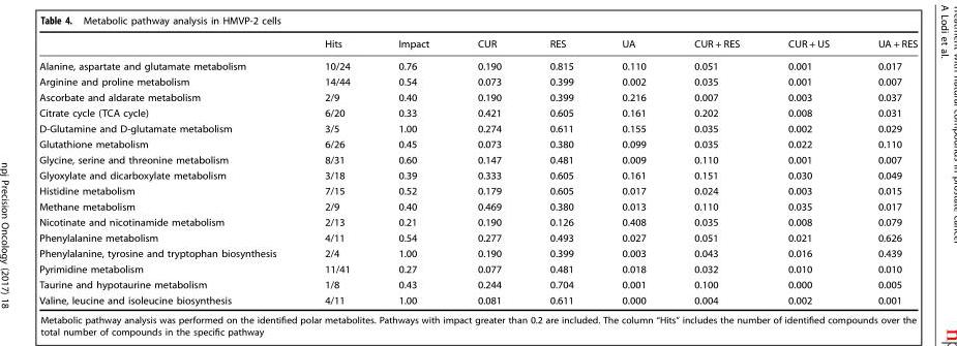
<table><thead><tr><td></td><td>Hits</td><td>Impact</td><td>CUR</td><td>RES</td><td>UA</td><td>CUR + RES</td><td>CUR + US</td><td>UA + RES</td></tr></thead><tbody><tr><td>Alanine, aspartate and glutamate metabolism</td><td>10/24</td><td>0.76</td><td>0.190</td><td>0.815</td><td>0.110</td><td>0.051</td><td>0.001</td><td>0.017</td></tr><tr><td>Arginine and proline metabolism</td><td>14/44</td><td>0.54</td><td>0.073</td><td>0.399</td><td>0.002</td><td>0.035</td><td>0.001</td><td>0.007</td></tr><tr><td>Ascorbate and aldarate metabolism</td><td>2/9</td><td>0.40</td><td>0.190</td><td>0.399</td><td>0.216</td><td>0.007</td><td>0.003</td><td>0.037</td></tr><tr><td>Citrate cycle (TCA cycle)</td><td>6/20</td><td>0.33</td><td>0.421</td><td>0.605</td><td>0.161</td><td>0.202</td><td>0.008</td><td>0.031</td></tr><tr><td>D-Glutamine and D-glutamate metabolism</td><td>3/5</td><td>1.00</td><td>0.274</td><td>0.611</td><td>0.155</td><td>0.035</td><td>0.002</td><td>0.029</td></tr><tr><td>Glutathione metabolism</td><td>6/26</td><td>0.45</td><td>0.073</td><td>0.380</td><td>0.099</td><td>0.035</td><td>0.022</td><td>0.110</td></tr><tr><td>Glycine, serine and threonine metabolism</td><td>8/31</td><td>0.60</td><td>0.147</td><td>0.481</td><td>0.009</td><td>0.110</td><td>0.001</td><td>0.007</td></tr><tr><td>Glyoxylate and dicarboxylate metabolism</td><td>3/18</td><td>0.39</td><td>0.333</td><td>0.605</td><td>0.161</td><td>0.151</td><td>0.030</td><td>0.049</td></tr><tr><td>Histidine metabolism</td><td>7/15</td><td>0.52</td><td>0.179</td><td>0.605</td><td>0.017</td><td>0.024</td><td>0.003</td><td>0.015</td></tr><tr><td>Methane metabolism</td><td>2/9</td><td>0.40</td><td>0.469</td><td>0.380</td><td>0.013</td><td>0.110</td><td>0.035</td><td>0.017</td></tr><tr><td>Nicotinate and nicotinamide metabolism</td><td>2/13</td><td>0.21</td><td>0.190</td><td>0.126</td><td>0.408</td><td>0.035</td><td>0.008</td><td>0.079</td></tr><tr><td>Phenylalanine metabolism</td><td>4/11</td><td>0.54</td><td>0.277</td><td>0.493</td><td>0.027</td><td>0.051</td><td>0.021</td><td>0.626</td></tr><tr><td>Phenylalanine, tyrosine and tryptophan biosynthesis</td><td>2/4</td><td>1.00</td><td>0.190</td><td>0.399</td><td>0.003</td><td>0.043</td><td>0.016</td><td>0.439</td></tr><tr><td>Pyrimidine metabolism</td><td>11/41</td><td>0.27</td><td>0.077</td><td>0.481</td><td>0.018</td><td>0.032</td><td>0.010</td><td>0.010</td></tr><tr><td>Taurine and hypotaurine metabolism</td><td>1/8</td><td>0.43</td><td>0.244</td><td>0.704</td><td>0.001</td><td>0.100</td><td>0.000</td><td>0.005</td></tr><tr><td>Valine, leucine and isoleucine biosynthesis</td><td>4/11</td><td>1.00</td><td>0.081</td><td>0.611</td><td>0.000</td><td>0.004</td><td>0.002</td><td>0.001</td></tr></tbody></table>